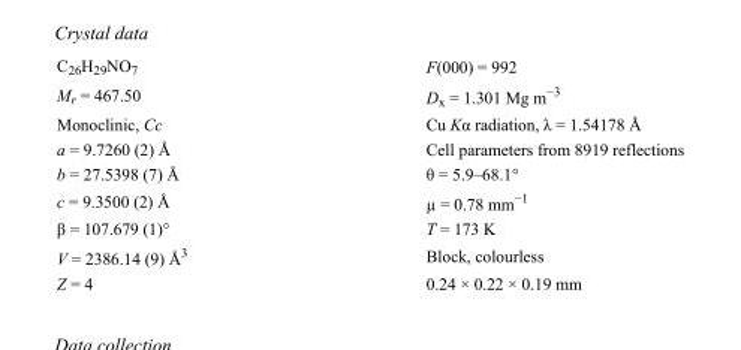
<table><tbody><tr><td>C<sub>26</sub>H<sub>29</sub>NO<sub>7</sub></td><td>F(000) = 992</td></tr><tr><td>M<sub>r</sub> = 467.50</td><td>D<sub>x</sub> = 1.301 Mg m<sup>−3</sup></td></tr><tr><td>Monoclinic, Cc</td><td>Cu Kα radiation, λ = 1.54178 Å</td></tr><tr><td>a = 9.7260 (2) Å</td><td>Cell parameters from 8919 reflections</td></tr><tr><td>b = 27.5398 (7) Å</td><td>θ = 5.9–68.1°</td></tr><tr><td>c = 9.3500 (2) Å</td><td>µ = 0.78 mm<sup>−1</sup></td></tr><tr><td>β = 107.679 (1)°</td><td>T = 173 K</td></tr><tr><td>V = 2386.14 (9) Å<sup>3</sup></td><td>Block, colourless</td></tr><tr><td>Z = 4</td><td>0.24 × 0.22 × 0.19 mm</td></tr></tbody></table>